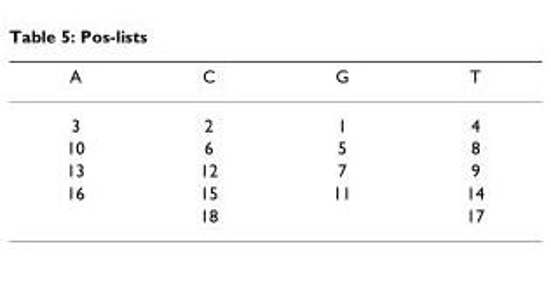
<table><thead><tr><td>A</td><td>C</td><td>G</td><td>T</td></tr></thead><tbody><tr><td>3</td><td>2</td><td>1</td><td>4</td></tr><tr><td>10</td><td>6</td><td>5</td><td>8</td></tr><tr><td>13</td><td>12</td><td>7</td><td>9</td></tr><tr><td rowspan="2">16</td><td>15</td><td>11</td><td>14</td></tr><tr><td>18</td><td></td><td>17</td></tr></tbody></table>